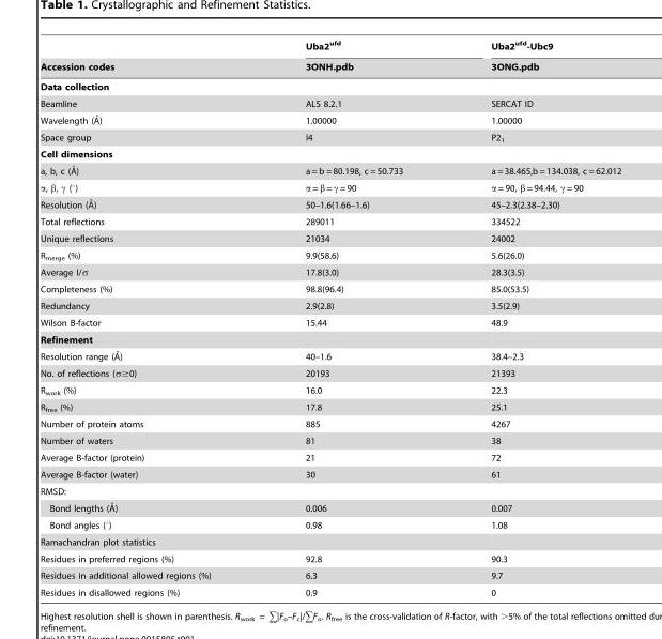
<table><thead><tr><td rowspan="2">Accession codes</td><td rowspan="2">Uba2<sup>ufd</sup> 3ONH.pdb</td><td rowspan="2">Uba2<sup>ufd</sup>-Ubc9 3ONG.pdb</td></tr><tr></tr></thead><tbody><tr><td colspan="3">Data collection</td></tr><tr><td>Beamline</td><td>ALS 8.2.1</td><td>SERCAT ID</td></tr><tr><td>Wavelength (A˚)</td><td>1.00000</td><td>1.00000</td></tr><tr><td>Space group</td><td>I4</td><td>P2<sub>1</sub></td></tr><tr><td colspan="3">Cell dimensions</td></tr><tr><td>a, b, c (A˚)</td><td>a = b = 80.198, c = 50.733</td><td>a = 38.465,b = 134.038, c = 62.012</td></tr><tr><td>α, β, γ (°)</td><td>α = β = γ = 90</td><td>α = 90, β = 94.44, γ = 90</td></tr><tr><td>Resolution (A˚)</td><td>50–1.6(1.66–1.6)</td><td>45–2.3(2.38–2.30)</td></tr><tr><td>Total reflections</td><td>289011</td><td>334522</td></tr><tr><td>Unique reflections</td><td>21034</td><td>24002</td></tr><tr><td>R<sub>merge</sub> (%)</td><td>9.9(58.6)</td><td>5.6(26.0)</td></tr><tr><td>Average I/σ</td><td>17.8(3.0)</td><td>28.3(3.5)</td></tr><tr><td>Completeness (%)</td><td>98.8(96.4)</td><td>85.0(53.5)</td></tr><tr><td>Redundancy</td><td>2.9(2.8)</td><td>3.5(2.9)</td></tr><tr><td>Wilson B-factor</td><td>15.44</td><td>48.9</td></tr><tr><td colspan="3">Refinement</td></tr><tr><td>Resolution range (A˚)</td><td>40–1.6</td><td>38.4–2.3</td></tr><tr><td>No. of reflections (σ≥0)</td><td>20193</td><td>21393</td></tr><tr><td>R<sub>work</sub> (%)</td><td>16.0</td><td>22.3</td></tr><tr><td>R<sub>free</sub> (%)</td><td>17.8</td><td>25.1</td></tr><tr><td>Number of protein atoms</td><td>885</td><td>4267</td></tr><tr><td>Number of waters</td><td>81</td><td>38</td></tr><tr><td>Average B-factor (protein)</td><td>21</td><td>72</td></tr><tr><td>Average B-factor (water)</td><td>30</td><td>61</td></tr><tr><td colspan="3">RMSD:</td></tr><tr><td>Bond lengths (A˚)</td><td>0.006</td><td>0.007</td></tr><tr><td>Bond angles (°)</td><td>0.98</td><td>1.08</td></tr><tr><td colspan="3">Ramachandran plot statistics</td></tr><tr><td>Residues in preferred regions (%)</td><td>92.8</td><td>90.3</td></tr><tr><td>Residues in additional allowed regions (%)</td><td>6.3</td><td>9.7</td></tr><tr><td>Residues in disallowed regions (%)</td><td>0.9</td><td>0</td></tr></tbody></table>